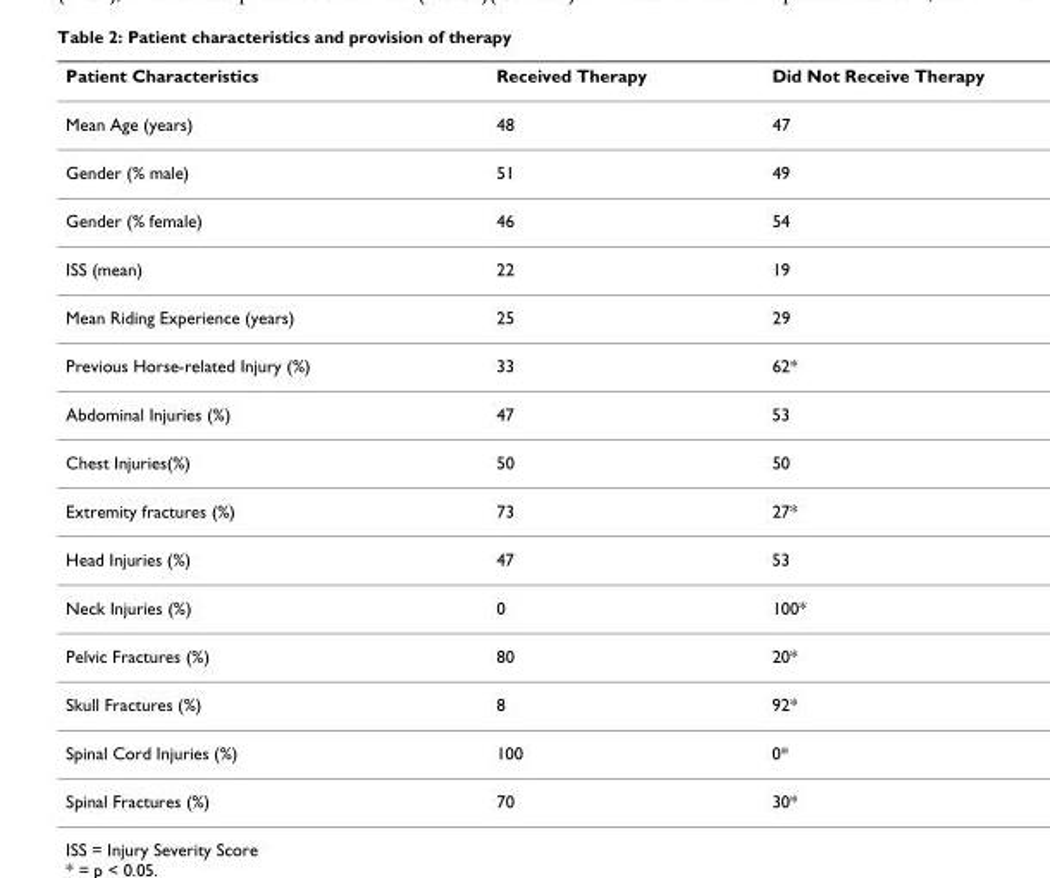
<table><thead><tr><td>Patient Characteristics</td><td>Received Therapy</td><td>Did Not Receive Therapy</td></tr></thead><tbody><tr><td>Mean Age (years)</td><td>48</td><td>47</td></tr><tr><td>Gender (% male)</td><td>51</td><td>49</td></tr><tr><td>Gender (% female)</td><td>46</td><td>54</td></tr><tr><td>ISS (mean)</td><td>22</td><td>19</td></tr><tr><td>Mean Riding Experience (years)</td><td>25</td><td>29</td></tr><tr><td>Previous Horse-related Injury (%)</td><td>33</td><td>62*</td></tr><tr><td>Abdominal Injuries (%)</td><td>47</td><td>53</td></tr><tr><td>Chest Injuries(%)</td><td>50</td><td>50</td></tr><tr><td>Extremity fractures (%)</td><td>73</td><td>27*</td></tr><tr><td>Head Injuries (%)</td><td>47</td><td>53</td></tr><tr><td>Neck Injuries (%)</td><td>0</td><td>100*</td></tr><tr><td>Pelvic Fractures (%)</td><td>80</td><td>20*</td></tr><tr><td>Skull Fractures (%)</td><td>8</td><td>92*</td></tr><tr><td>Spinal Cord Injuries (%)</td><td>100</td><td>0*</td></tr><tr><td>Spinal Fractures (%)</td><td>70</td><td>30*</td></tr></tbody></table>